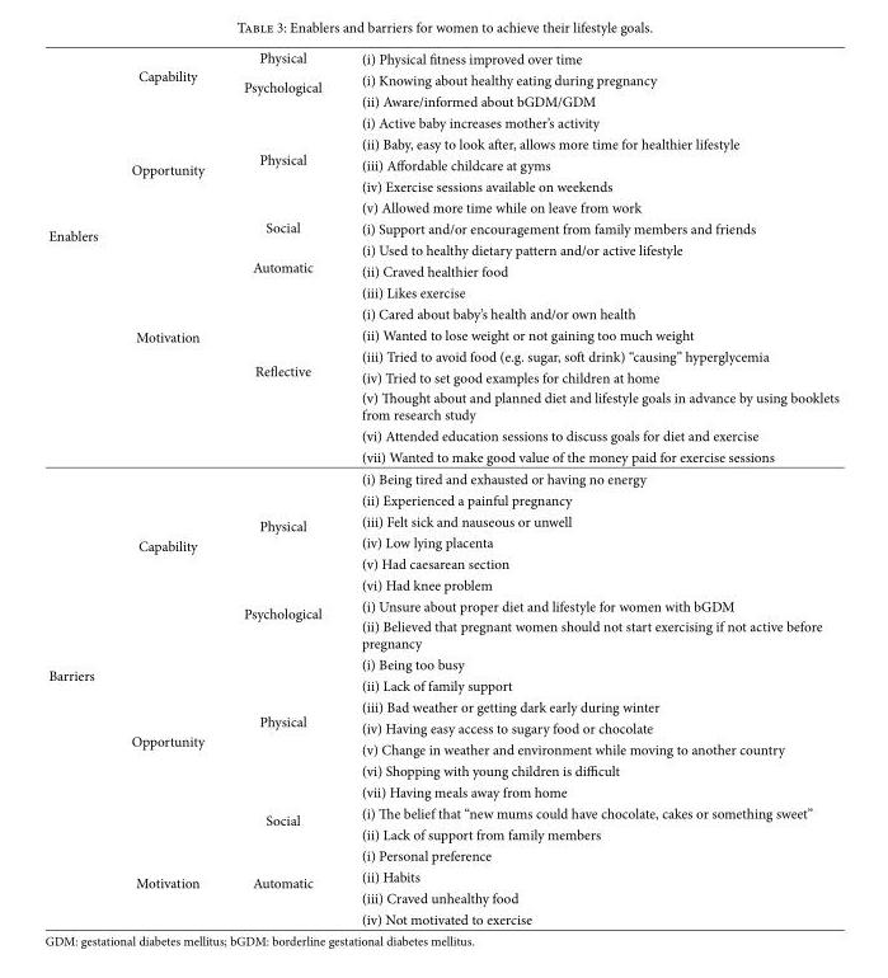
<table><tbody><tr><td rowspan="19">Enablers</td><td rowspan="3">Capability</td><td>Physical</td><td>(i) Physical fitness improved over time</td></tr><tr><td rowspan="2">Psychological</td><td>(i) Knowing about healthy eating during pregnancy</td></tr><tr><td>(ii) Aware/informed about bGDM/GDM</td></tr><tr><td rowspan="6">Opportunity</td><td rowspan="5">Physical</td><td>(i) Active baby increases mother’s activity</td></tr><tr><td>(ii) Baby, easy to look after, allows more time for healthier lifestyle</td></tr><tr><td>(iii) Affordable childcare at gyms</td></tr><tr><td>(iv) Exercise sessions available on weekends</td></tr><tr><td>(v) Allowed more time while on leave from work</td></tr><tr><td>Social</td><td>(i) Support and/or encouragement from family members and friends</td></tr><tr><td rowspan="10">Motivation</td><td rowspan="3">Automatic</td><td>(i) Used to healthy dietary pattern and/or active lifestyle</td></tr><tr><td>(ii) Craved healthier food</td></tr><tr><td>(iii) Likes exercise</td></tr><tr><td rowspan="7">Reflective</td><td>(i) Cared about baby’s health and/or own health</td></tr><tr><td>(ii) Wanted to lose weight or not gaining too much weight</td></tr><tr><td>(iii) Tried to avoid food (e.g. sugar, soft drink) “causing” hyperglycemia</td></tr><tr><td>(iv) Tried to set good examples for children at home</td></tr><tr><td>(v) Thought about and planned diet and lifestyle goals in advance by using booklets from research study</td></tr><tr><td>(vi) Attended education sessions to discuss goals for diet and exercise</td></tr><tr><td>(vii) Wanted to make good value of the money paid for exercise sessions</td></tr><tr><td rowspan="21">Barriers</td><td rowspan="8">Capability</td><td rowspan="6">Physical</td><td>(i) Being tired and exhausted or having no energy</td></tr><tr><td>(ii) Experienced a painful pregnancy</td></tr><tr><td>(iii) Felt sick and nauseous or unwell</td></tr><tr><td>(iv) Low lying placenta</td></tr><tr><td>(v) Had caesarean section</td></tr><tr><td>(vi) Had knee problem</td></tr><tr><td rowspan="2">Psychological</td><td>(i) Unsure about proper diet and lifestyle for women with bGDM</td></tr><tr><td>(ii) Believed that pregnant women should not start exercising if not active before pregnancy</td></tr><tr><td rowspan="9">Opportunity</td><td rowspan="7">Physical</td><td>(i) Being too busy</td></tr><tr><td>(ii) Lack of family support</td></tr><tr><td>(iii) Bad weather or getting dark early during winter</td></tr><tr><td>(iv) Having easy access to sugary food or chocolate</td></tr><tr><td>(v) Change in weather and environment while moving to another country</td></tr><tr><td>(vi) Shopping with young children is difficult</td></tr><tr><td>(vii) Having meals away from home</td></tr><tr><td rowspan="2">Social</td><td>(i) The belief that “new mums could have chocolate, cakes or something sweet”</td></tr><tr><td>(ii) Lack of support from family members</td></tr><tr><td rowspan="4">Motivation</td><td rowspan="4">Automatic</td><td>(i) Personal preference</td></tr><tr><td>(ii) Habits</td></tr><tr><td>(iii) Craved unhealthy food</td></tr><tr><td>(iv) Not motivated to exercise</td></tr></tbody></table>